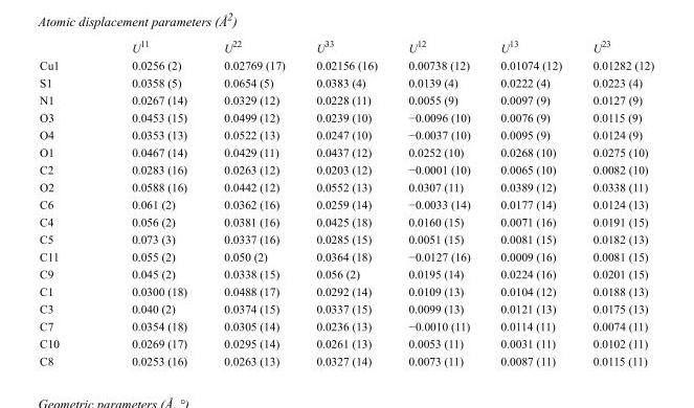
<table><thead><tr><td></td><td>U<sup>11</sup></td><td>U<sup>22</sup></td><td>U<sup>33</sup></td><td>U<sup>12</sup></td><td>U<sup>13</sup></td><td>U<sup>23</sup></td></tr></thead><tbody><tr><td>Cu1</td><td>0.0256 (2)</td><td>0.02769 (17)</td><td>0.02156 (16)</td><td>0.00738 (12)</td><td>0.01074 (12)</td><td>0.01282 (12)</td></tr><tr><td>S1</td><td>0.0358 (5)</td><td>0.0654 (5)</td><td>0.0383 (4)</td><td>0.0139 (4)</td><td>0.0222 (4)</td><td>0.0223 (4)</td></tr><tr><td>N1</td><td>0.0267 (14)</td><td>0.0329 (12)</td><td>0.0228 (11)</td><td>0.0055 (9)</td><td>0.0097 (9)</td><td>0.0127 (9)</td></tr><tr><td>O3</td><td>0.0453 (15)</td><td>0.0499 (12)</td><td>0.0239 (10)</td><td>−0.0096 (10)</td><td>0.0076 (9)</td><td>0.0115 (9)</td></tr><tr><td>O4</td><td>0.0353 (13)</td><td>0.0522 (13)</td><td>0.0247 (10)</td><td>−0.0037 (10)</td><td>0.0095 (9)</td><td>0.0124 (9)</td></tr><tr><td>O1</td><td>0.0467 (14)</td><td>0.0429 (11)</td><td>0.0437 (12)</td><td>0.0252 (10)</td><td>0.0268 (10)</td><td>0.0275 (10)</td></tr><tr><td>C2</td><td>0.0283 (16)</td><td>0.0263 (12)</td><td>0.0203 (12)</td><td>−0.0001 (10)</td><td>0.0065 (10)</td><td>0.0082 (10)</td></tr><tr><td>O2</td><td>0.0588 (16)</td><td>0.0442 (12)</td><td>0.0552 (13)</td><td>0.0307 (11)</td><td>0.0389 (12)</td><td>0.0338 (11)</td></tr><tr><td>C6</td><td>0.061 (2)</td><td>0.0362 (16)</td><td>0.0259 (14)</td><td>−0.0033 (14)</td><td>0.0177 (14)</td><td>0.0124 (13)</td></tr><tr><td>C4</td><td>0.056 (2)</td><td>0.0381 (16)</td><td>0.0425 (18)</td><td>0.0160 (15)</td><td>0.0071 (16)</td><td>0.0191 (15)</td></tr><tr><td>C5</td><td>0.073 (3)</td><td>0.0337 (16)</td><td>0.0285 (15)</td><td>0.0051 (15)</td><td>0.0081 (15)</td><td>0.0182 (13)</td></tr><tr><td>C11</td><td>0.055 (2)</td><td>0.050 (2)</td><td>0.0364 (18)</td><td>−0.0127 (16)</td><td>0.0009 (16)</td><td>0.0081 (15)</td></tr><tr><td>C9</td><td>0.045 (2)</td><td>0.0338 (15)</td><td>0.056 (2)</td><td>0.0195 (14)</td><td>0.0224 (16)</td><td>0.0201 (15)</td></tr><tr><td>C1</td><td>0.0300 (18)</td><td>0.0488 (17)</td><td>0.0292 (14)</td><td>0.0109 (13)</td><td>0.0104 (12)</td><td>0.0188 (13)</td></tr><tr><td>C3</td><td>0.040 (2)</td><td>0.0374 (15)</td><td>0.0337 (15)</td><td>0.0099 (13)</td><td>0.0121 (13)</td><td>0.0175 (13)</td></tr><tr><td>C7</td><td>0.0354 (18)</td><td>0.0305 (14)</td><td>0.0236 (13)</td><td>−0.0010 (11)</td><td>0.0114 (11)</td><td>0.0074 (11)</td></tr><tr><td>C10</td><td>0.0269 (17)</td><td>0.0295 (14)</td><td>0.0261 (13)</td><td>0.0053 (11)</td><td>0.0031 (11)</td><td>0.0102 (11)</td></tr><tr><td>C8</td><td>0.0253 (16)</td><td>0.0263 (13)</td><td>0.0327 (14)</td><td>0.0073 (11)</td><td>0.0087 (11)</td><td>0.0115 (11)</td></tr></tbody></table>